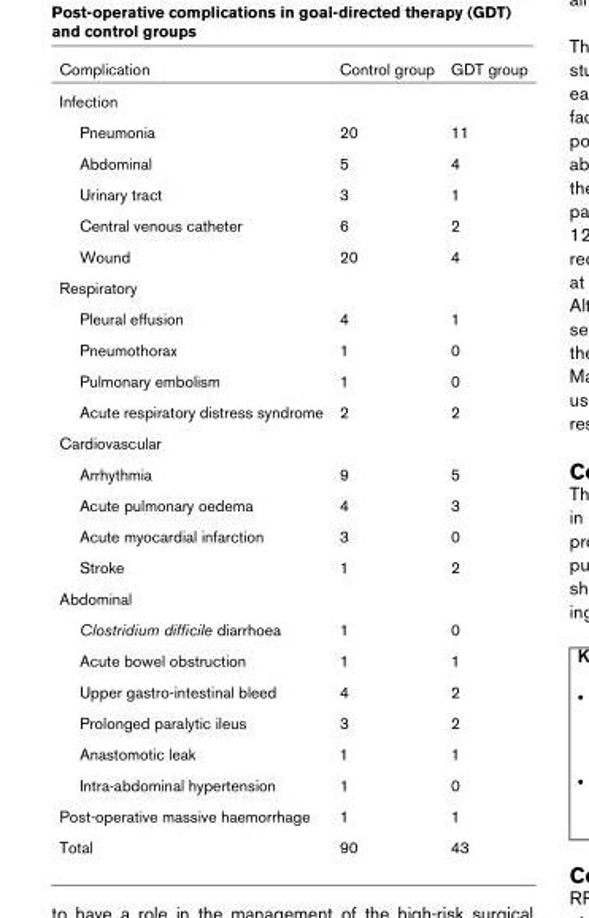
<table><thead><tr><td>Complication</td><td>Control group</td><td>GDT group</td></tr></thead><tbody><tr><td colspan="3">Infection</td></tr><tr><td>Pneumonia</td><td>20</td><td>11</td></tr><tr><td>Abdominal</td><td>5</td><td>4</td></tr><tr><td>Urinary tract</td><td>3</td><td>1</td></tr><tr><td>Central venous catheter</td><td>6</td><td>2</td></tr><tr><td>Wound</td><td>20</td><td>4</td></tr><tr><td colspan="3">Respiratory</td></tr><tr><td>Pleural effusion</td><td>4</td><td>1</td></tr><tr><td>Pneumothorax</td><td>1</td><td>0</td></tr><tr><td>Pulmonary embolism</td><td>1</td><td>0</td></tr><tr><td>Acute respiratory distress syndrome</td><td>2</td><td>2</td></tr><tr><td colspan="3">Cardiovascular</td></tr><tr><td>Arrhythmia</td><td>9</td><td>5</td></tr><tr><td>Acute pulmonary oedema</td><td>4</td><td>3</td></tr><tr><td>Acute myocardial infarction</td><td>3</td><td>0</td></tr><tr><td>Stroke</td><td>1</td><td>2</td></tr><tr><td colspan="3">Abdominal</td></tr><tr><td>Clostridium difficile diarrhoea</td><td>1</td><td>0</td></tr><tr><td>Acute bowel obstruction</td><td>1</td><td>1</td></tr><tr><td>Upper gastro-intestinal bleed</td><td>4</td><td>2</td></tr><tr><td>Prolonged paralytic ileus</td><td>3</td><td>2</td></tr><tr><td>Anastomotic leak</td><td>1</td><td>1</td></tr><tr><td>Intra-abdominal hypertension</td><td>1</td><td>0</td></tr><tr><td>Post-operative massive haemorrhage</td><td>1</td><td>1</td></tr><tr><td>Total</td><td>90</td><td>43</td></tr></tbody></table>